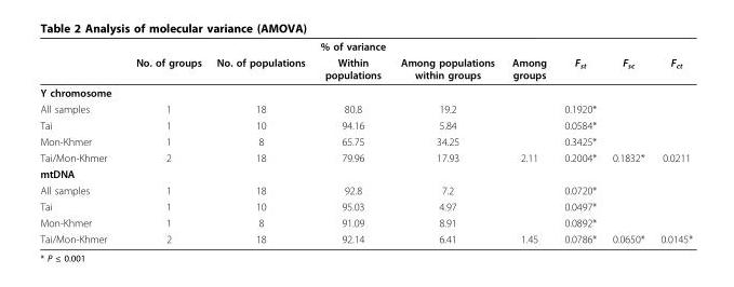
<table><thead><tr><td rowspan="2"></td><td rowspan="2">No. of groups</td><td rowspan="2">No. of populations</td><td rowspan="2">% of variance Within populations</td><td rowspan="2">Among populations within groups</td><td rowspan="2">Among groups</td><td rowspan="2">F<sub>st</sub></td><td rowspan="2">F<sub>sc</sub></td><td rowspan="2">F<sub>ct</sub></td></tr><tr></tr></thead><tbody><tr><td colspan="9">Y chromosome</td></tr><tr><td>All samples</td><td>1</td><td>18</td><td>80.8</td><td>19.2</td><td></td><td>0.1920*</td><td></td><td></td></tr><tr><td>Tai</td><td>1</td><td>10</td><td>94.16</td><td>5.84</td><td></td><td>0.0584*</td><td></td><td></td></tr><tr><td>Mon-Khmer</td><td>1</td><td>8</td><td>65.75</td><td>34.25</td><td></td><td>0.3425*</td><td></td><td></td></tr><tr><td>Tai/Mon-Khmer</td><td>2</td><td>18</td><td>79.96</td><td>17.93</td><td>2.11</td><td>0.2004*</td><td>0.1832*</td><td>0.0211</td></tr><tr><td colspan="9">mtDNA</td></tr><tr><td>All samples</td><td>1</td><td>18</td><td>92.8</td><td>7.2</td><td></td><td>0.0720*</td><td></td><td></td></tr><tr><td>Tai</td><td>1</td><td>10</td><td>95.03</td><td>4.97</td><td></td><td>0.0497*</td><td></td><td></td></tr><tr><td>Mon-Khmer</td><td>1</td><td>8</td><td>91.09</td><td>8.91</td><td></td><td>0.0892*</td><td></td><td></td></tr><tr><td>Tai/Mon-Khmer</td><td>2</td><td>18</td><td>92.14</td><td>6.41</td><td>1.45</td><td>0.0786*</td><td>0.0650*</td><td>0.0145*</td></tr></tbody></table>